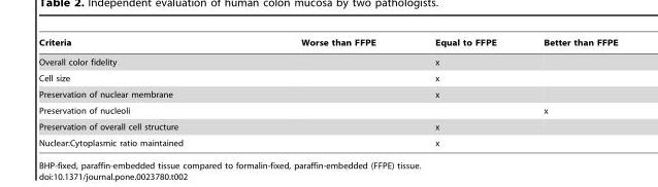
<table><thead><tr><td>Criteria</td><td>Worse than FFPE</td><td>Equal to FFPE</td><td>Better than FFPE</td></tr></thead><tbody><tr><td>Overall color fidelity</td><td></td><td>x</td><td></td></tr><tr><td>Cell size</td><td></td><td>x</td><td></td></tr><tr><td>Preservation of nuclear membrane</td><td></td><td>x</td><td></td></tr><tr><td>Preservation of nucleoli</td><td></td><td></td><td>x</td></tr><tr><td>Preservation of overall cell structure</td><td></td><td>x</td><td></td></tr><tr><td>Nuclear:Cytoplasmic ratio maintained</td><td></td><td>x</td><td></td></tr></tbody></table>